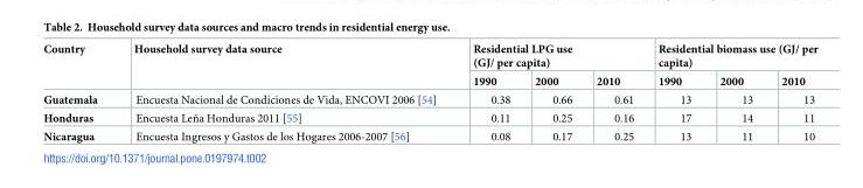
<table><thead><tr><td rowspan="2">Country</td><td rowspan="2">Household survey data source</td><td colspan="3">Residential LPG use (GJ/ per capita)</td><td colspan="3">Residential biomass use (GJ/ per capita)</td></tr><tr><td>1990</td><td>2000</td><td>2010</td><td>1990</td><td>2000</td><td>2010</td></tr></thead><tbody><tr><td>Guatemala</td><td>Encuesta Nacional de Condiciones de Vida, ENCOVI 2006 [54]</td><td>0.38</td><td>0.66</td><td>0.61</td><td>13</td><td>13</td><td>13</td></tr><tr><td>Honduras</td><td>Encuesta Leña Honduras 2011 [55]</td><td>0.11</td><td>0.25</td><td>0.16</td><td>17</td><td>14</td><td>11</td></tr><tr><td>Nicaragua</td><td>Encuesta Ingresos y Gastos de los Hogares 2006-2007 [56]</td><td>0.08</td><td>0.17</td><td>0.25</td><td>13</td><td>11</td><td>10</td></tr></tbody></table>